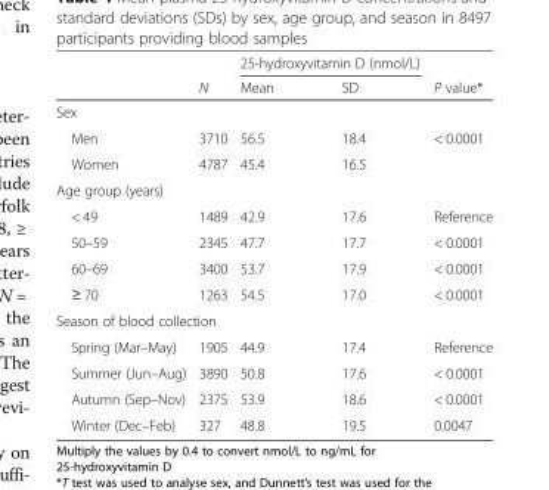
<table><thead><tr><td rowspan="2"></td><td rowspan="2">N</td><td colspan="2">25-hydroxyvitamin D (nmol/L)</td><td rowspan="2">P value*</td></tr><tr><td>Mean</td><td>SD</td></tr></thead><tbody><tr><td colspan="5">Sex</td></tr><tr><td>Men</td><td>3710</td><td>56.5</td><td>18.4</td><td>&lt; 0.0001</td></tr><tr><td>Women</td><td>4787</td><td>45.4</td><td>16.5</td><td></td></tr><tr><td colspan="5">Age group (years)</td></tr><tr><td>&lt; 49</td><td>1489</td><td>42.9</td><td>17.6</td><td>Reference</td></tr><tr><td>50–59</td><td>2345</td><td>47.7</td><td>17.7</td><td>&lt; 0.0001</td></tr><tr><td>60–69</td><td>3400</td><td>53.7</td><td>17.9</td><td>&lt; 0.0001</td></tr><tr><td>≥ 70</td><td>1263</td><td>54.5</td><td>17.0</td><td>&lt; 0.0001</td></tr><tr><td colspan="5">Season of blood collection</td></tr><tr><td>Spring (Mar–May)</td><td>1905</td><td>44.9</td><td>17.4</td><td>Reference</td></tr><tr><td>Summer (Jun–Aug)</td><td>3890</td><td>50.8</td><td>17.6</td><td>&lt; 0.0001</td></tr><tr><td>Autumn (Sep–Nov)</td><td>2375</td><td>53.9</td><td>18.6</td><td>&lt; 0.0001</td></tr><tr><td>Winter (Dec–Feb)</td><td>327</td><td>48.8</td><td>19.5</td><td>0.0047</td></tr></tbody></table>